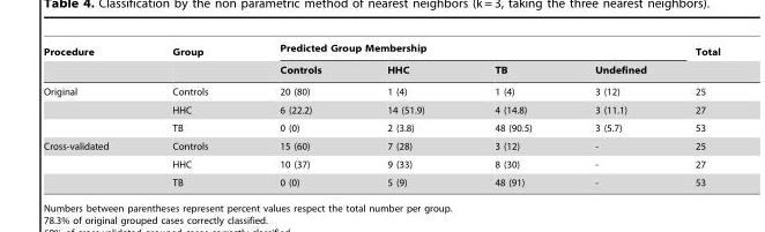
<table><thead><tr><td rowspan="2">Procedure</td><td rowspan="2">Group</td><td colspan="4">Predicted Group Membership</td><td rowspan="2">Total</td></tr><tr><td>Controls</td><td>HHC</td><td>TB</td><td>Undefined</td></tr></thead><tbody><tr><td rowspan="3">Original</td><td>Controls</td><td>20 (80)</td><td>1 (4)</td><td>1 (4)</td><td>3 (12)</td><td>25</td></tr><tr><td>HHC</td><td>6 (22.2)</td><td>14 (51.9)</td><td>4 (14.8)</td><td>3 (11.1)</td><td>27</td></tr><tr><td>TB</td><td>0 (0)</td><td>2 (3.8)</td><td>48 (90.5)</td><td>3 (5.7)</td><td>53</td></tr><tr><td rowspan="3">Cross-validated</td><td>Controls</td><td>15 (60)</td><td>7 (28)</td><td>3 (12)</td><td>-</td><td>25</td></tr><tr><td>HHC</td><td>10 (37)</td><td>9 (33)</td><td>8 (30)</td><td>-</td><td>27</td></tr><tr><td>TB</td><td>0 (0)</td><td>5 (9)</td><td>48 (91)</td><td>-</td><td>53</td></tr></tbody></table>